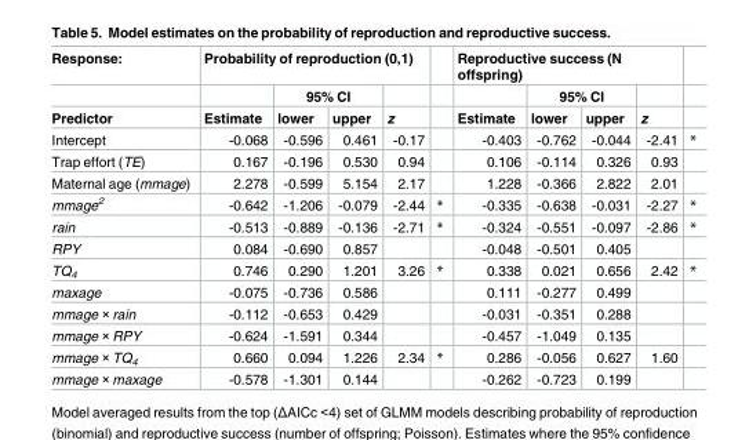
<table><thead><tr><td rowspan="3">Response: Predictor</td><td colspan="4">Probability of reproduction (0,1)</td><td rowspan="3"></td><td colspan="4">Reproductive success (N offspring)</td><td rowspan="3"></td></tr><tr><td rowspan="2">Estimate</td><td colspan="2">95% CI</td><td rowspan="2">z</td><td rowspan="2">Estimate</td><td colspan="2">95% CI</td><td rowspan="2">z</td></tr><tr><td>lower</td><td>upper</td><td>lower</td><td>upper</td></tr></thead><tbody><tr><td>Intercept</td><td>-0.068</td><td>-0.596</td><td>0.461</td><td>-0.17</td><td></td><td>-0.403</td><td>-0.762</td><td>-0.044</td><td>-2.41</td><td>*</td></tr><tr><td>Trap effort (TE)</td><td>0.167</td><td>-0.196</td><td>0.530</td><td>0.94</td><td></td><td>0.106</td><td>-0.114</td><td>0.326</td><td>0.93</td><td></td></tr><tr><td>Maternal age (mmage)</td><td>2.278</td><td>-0.599</td><td>5.154</td><td>2.17</td><td></td><td>1.228</td><td>-0.366</td><td>2.822</td><td>2.01</td><td></td></tr><tr><td>mmage<sup>2</sup></td><td>-0.642</td><td>-1.206</td><td>-0.079</td><td>-2.44</td><td>*</td><td>-0.335</td><td>-0.638</td><td>-0.031</td><td>-2.27</td><td>*</td></tr><tr><td>rain</td><td>-0.513</td><td>-0.889</td><td>-0.136</td><td>-2.71</td><td>*</td><td>-0.324</td><td>-0.551</td><td>-0.097</td><td>-2.86</td><td>*</td></tr><tr><td>RPY</td><td>0.084</td><td>-0.690</td><td>0.857</td><td></td><td></td><td>-0.048</td><td>-0.501</td><td>0.405</td><td></td><td></td></tr><tr><td>TQ<sub>4</sub></td><td>0.746</td><td>0.290</td><td>1.201</td><td>3.26</td><td>*</td><td>0.338</td><td>0.021</td><td>0.656</td><td>2.42</td><td>*</td></tr><tr><td>maxage</td><td>-0.075</td><td>-0.736</td><td>0.586</td><td></td><td></td><td>0.111</td><td>-0.277</td><td>0.499</td><td></td><td></td></tr><tr><td>mmage × rain</td><td>-0.112</td><td>-0.653</td><td>0.429</td><td></td><td></td><td>-0.031</td><td>-0.351</td><td>0.288</td><td></td><td></td></tr><tr><td>mmage × RPY</td><td>-0.624</td><td>-1.591</td><td>0.344</td><td></td><td></td><td>-0.457</td><td>-1.049</td><td>0.135</td><td></td><td></td></tr><tr><td>mmage × TQ<sub>4</sub></td><td>0.660</td><td>0.094</td><td>1.226</td><td>2.34</td><td>*</td><td>0.286</td><td>-0.056</td><td>0.627</td><td>1.60</td><td></td></tr><tr><td>mmage × maxage</td><td>-0.578</td><td>-1.301</td><td>0.144</td><td></td><td></td><td>-0.262</td><td>-0.723</td><td>0.199</td><td></td><td></td></tr></tbody></table>